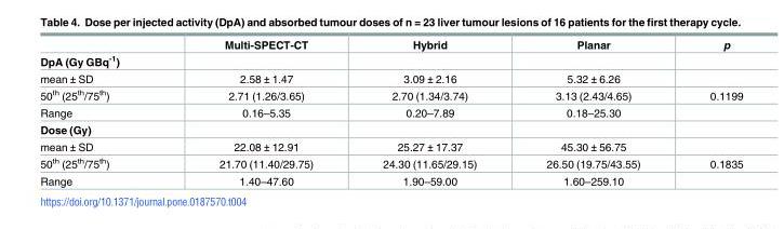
<table><thead><tr><td></td><td>Multi-SPECT-CT</td><td>Hybrid</td><td>Planar</td><td>p</td></tr></thead><tbody><tr><td colspan="5">DpA (Gy GBq<sup>-1</sup>)</td></tr><tr><td>mean ± SD</td><td>2.58 ± 1.47</td><td>3.09 ± 2.16</td><td>5.32 ± 6.26</td><td></td></tr><tr><td>50<sup>th</sup> (25<sup>th</sup>/75<sup>th</sup>)</td><td>2.71 (1.26/3.65)</td><td>2.70 (1.34/3.74)</td><td>3.13 (2.43/4.65)</td><td>0.1199</td></tr><tr><td>Range</td><td>0.16–5.35</td><td>0.20–7.89</td><td>0.18–25.30</td><td></td></tr><tr><td colspan="5">Dose (Gy)</td></tr><tr><td>mean ± SD</td><td>22.08 ± 12.91</td><td>25.27 ± 17.37</td><td>45.30 ± 56.75</td><td></td></tr><tr><td>50<sup>th</sup> (25<sup>th</sup>/75<sup>th</sup>)</td><td>21.70 (11.40/29.75)</td><td>24.30 (11.65/29.15)</td><td>26.50 (19.75/43.55)</td><td>0.1835</td></tr><tr><td>Range</td><td>1.40–47.60</td><td>1.90–59.00</td><td>1.60–259.10</td><td></td></tr></tbody></table>